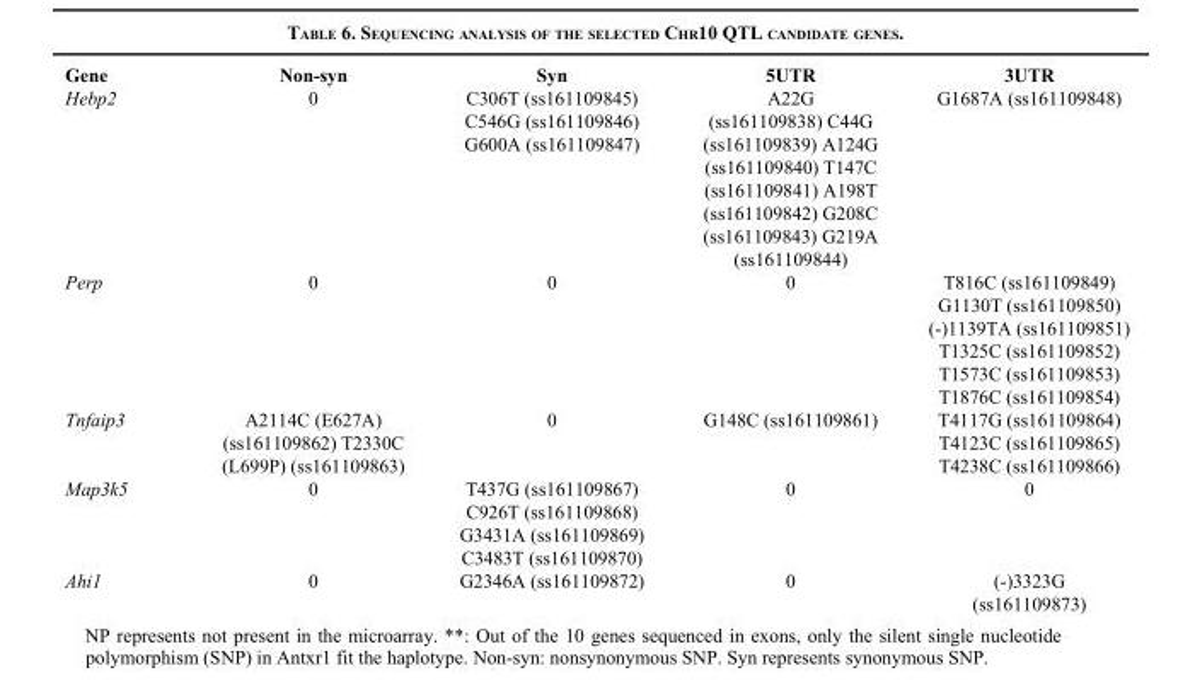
<table><thead><tr><td>Gene</td><td>Non-syn</td><td>Syn</td><td>5UTR</td><td>3UTR</td></tr></thead><tbody><tr><td>Hebp2</td><td>0</td><td>C306T (ss161109845) C546G (ss161109846) G600A (ss161109847)</td><td>A22G (ss161109838) C44G (ss161109839) A124G (ss161109840) T147C (ss161109841) A198T (ss161109842) G208C (ss161109843) G219A (ss161109844)</td><td>G1687A (ss161109848)</td></tr><tr><td>Perp</td><td>0</td><td>0</td><td>0</td><td>T816C (ss161109849) G1130T (ss161109850) (-)1139TA (ss161109851) T1325C (ss161109852) T1573C (ss161109853) T1876C (ss161109854)</td></tr><tr><td>Tnfaip3</td><td>A2114C (E627A) (ss161109862) T2330C (L699P) (ss161109863)</td><td>0</td><td>G148C (ss161109861)</td><td>T4117G (ss161109864) T4123C (ss161109865) T4238C (ss161109866)</td></tr><tr><td>Map3k5</td><td>0</td><td>T437G (ss161109867) C926T (ss161109868) G3431A (ss161109869) C3483T (ss161109870)</td><td>0</td><td>0</td></tr><tr><td>Ahi1</td><td>0</td><td>G2346A (ss161109872)</td><td>0</td><td>(-)3323G (ss161109873)</td></tr></tbody></table>